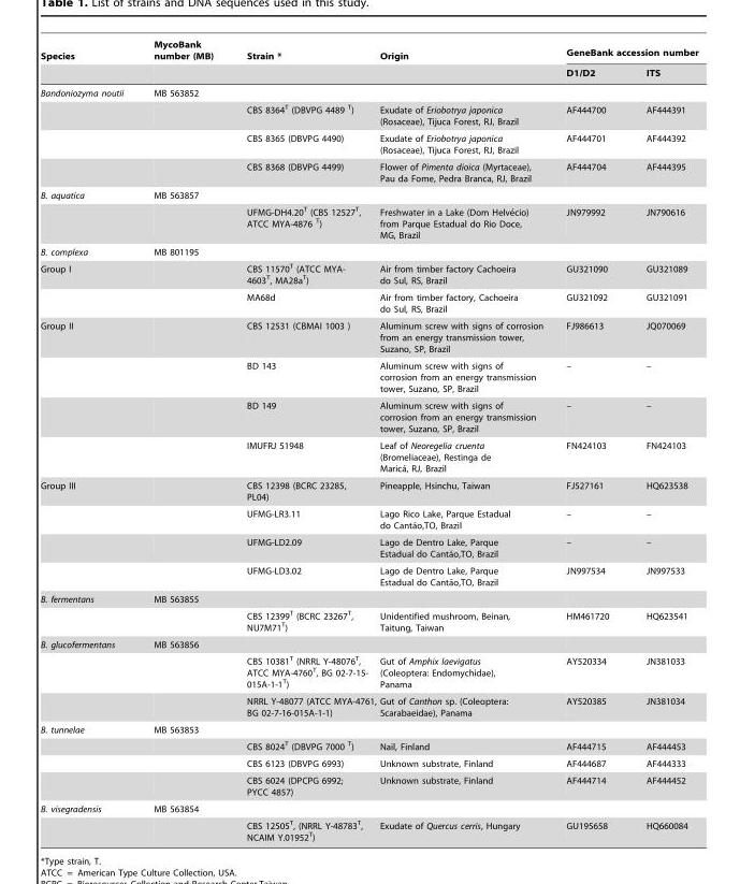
<table><thead><tr><td rowspan="2">Species</td><td rowspan="2">MycoBank number (MB)</td><td rowspan="2">Strain *</td><td rowspan="2">Origin</td><td colspan="2">GeneBank accession number</td></tr><tr><td>D1/D2</td><td>ITS</td></tr></thead><tbody><tr><td rowspan="4">Bandoniozyma noutii</td><td>MB 563852</td><td></td><td></td><td></td><td></td></tr><tr><td></td><td>CBS 8364<sup>T</sup> (DBVPG 4489 <sup>T</sup>)</td><td>Exudate of Eriobotrya japonica (Rosaceae), Tijuca Forest, RJ, Brazil</td><td>AF444700</td><td>AF444391</td></tr><tr><td></td><td>CBS 8365 (DBVPG 4490)</td><td>Exudate of Eriobotrya japonica (Rosaceae), Tijuca Forest, RJ, Brazil</td><td>AF444701</td><td>AF444392</td></tr><tr><td></td><td>CBS 8368 (DBVPG 4499)</td><td>Flower of Pimenta dioica (Myrtaceae), Pau da Fome, Pedra Branca, RJ, Brazil</td><td>AF444704</td><td>AF444395</td></tr><tr><td rowspan="2">B. aquatica</td><td>MB 563857</td><td></td><td></td><td></td><td></td></tr><tr><td></td><td>UFMG-DH4.20<sup>T</sup> (CBS 12527<sup>T</sup>, ATCC MYA-4876 <sup>T</sup>)</td><td>Freshwater in a Lake (Dom Helve´cio) from Parque Estadual do Rio Doce, MG, Brazil</td><td>JN979992</td><td>JN790616</td></tr><tr><td>B. complexa</td><td>MB 801195</td><td></td><td></td><td></td><td></td></tr><tr><td rowspan="2">Group I</td><td></td><td>CBS 11570<sup>T</sup> (ATCC MYA- 4603<sup>T</sup>, MA28a<sup>T</sup>)</td><td>Air from timber factory Cachoeira do Sul, RS, Brazil</td><td>GU321090</td><td>GU321089</td></tr><tr><td></td><td>MA68d</td><td>Air from timber factory, Cachoeira do Sul, RS, Brazil</td><td>GU321092</td><td>GU321091</td></tr><tr><td rowspan="4">Group II</td><td></td><td>CBS 12531 (CBMAI 1003 )</td><td>Aluminum screw with signs of corrosion from an energy transmission tower, Suzano, SP, Brazil</td><td>FJ986613</td><td>JQ070069</td></tr><tr><td></td><td>BD 143</td><td>Aluminum screw with signs of corrosion from an energy transmission tower, Suzano, SP, Brazil</td><td>–</td><td>–</td></tr><tr><td></td><td>BD 149</td><td>Aluminum screw with signs of corrosion from an energy transmission tower, Suzano, SP, Brazil</td><td>–</td><td>–</td></tr><tr><td></td><td>IMUFRJ 51948</td><td>Leaf of Neoregelia cruenta (Bromeliaceae), Restinga de Marica´, RJ, Brazil</td><td>FN424103</td><td>FN424103</td></tr><tr><td rowspan="4">Group III</td><td></td><td>CBS 12398 (BCRC 23285, PL04)</td><td>Pineapple, Hsinchu, Taiwan</td><td>FJ527161</td><td>HQ623538</td></tr><tr><td></td><td>UFMG-LR3.11</td><td>Lago Rico Lake, Parque Estadual do Canta˜o,TO, Brazil</td><td>–</td><td>–</td></tr><tr><td></td><td>UFMG-LD2.09</td><td>Lago de Dentro Lake, Parque Estadual do Canta˜o,TO, Brazil</td><td>–</td><td>–</td></tr><tr><td></td><td>UFMG-LD3.02</td><td>Lago de Dentro Lake, Parque Estadual do Canta˜o,TO, Brazil</td><td>JN997534</td><td>JN997533</td></tr><tr><td rowspan="2">B. fermentans</td><td>MB 563855</td><td></td><td></td><td></td><td></td></tr><tr><td></td><td>CBS 12399<sup>T</sup> (BCRC 23267<sup>T</sup>, NU7M71<sup>T</sup>)</td><td>Unidentified mushroom, Beinan, Taitung, Taiwan</td><td>HM461720</td><td>HQ623541</td></tr><tr><td rowspan="3">B. glucofermentans</td><td>MB 563856</td><td></td><td></td><td></td><td></td></tr><tr><td></td><td>CBS 10381<sup>T</sup> (NRRL Y-48076<sup>T</sup>, ATCC MYA-4760<sup>T</sup>, BG 02-7-15- 015A-1-1<sup>T</sup>)</td><td>Gut of Amphix laevigatus (Coleoptera: Endomychidae), Panama</td><td>AY520334</td><td>JN381033</td></tr><tr><td></td><td>NRRL Y-48077 (ATCC MYA-4761, BG 02-7-16-015A-1-1)</td><td>Gut of Canthon sp. (Coleoptera: Scarabaeidae), Panama</td><td>AY520385</td><td>JN381034</td></tr><tr><td rowspan="4">B. tunnelae</td><td>MB 563853</td><td></td><td></td><td></td><td></td></tr><tr><td></td><td>CBS 8024<sup>T</sup> (DBVPG 7000 <sup>T</sup>)</td><td>Nail, Finland</td><td>AF444715</td><td>AF444453</td></tr><tr><td></td><td>CBS 6123 (DBVPG 6993)</td><td>Unknown substrate, Finland</td><td>AF444687</td><td>AF444333</td></tr><tr><td></td><td>CBS 6024 (DPCPG 6992; PYCC 4857)</td><td>Unknown substrate, Finland</td><td>AF444714</td><td>AF444452</td></tr><tr><td rowspan="2">B. visegradensis</td><td>MB 563854</td><td></td><td></td><td></td><td></td></tr><tr><td></td><td>CBS 12505<sup>T</sup>, (NRRL Y-48783<sup>T</sup>, NCAIM Y.01952<sup>T</sup>)</td><td>Exudate of Quercus cerris, Hungary</td><td>GU195658</td><td>HQ660084</td></tr></tbody></table>